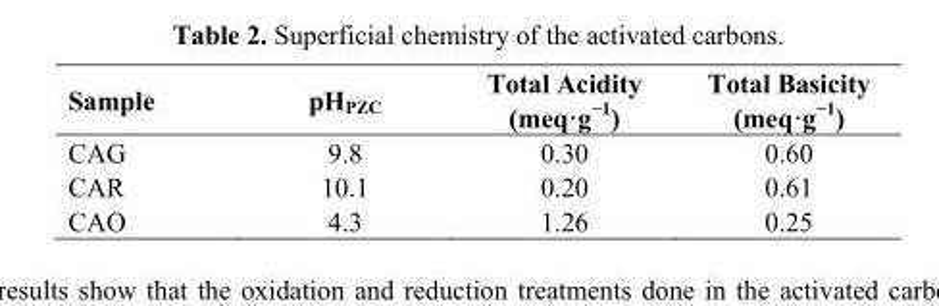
<table><thead><tr><td>Sample</td><td>pH<sub>PZC</sub></td><td>Total Acidity (meq·g<sup>−1</sup>)</td><td>Total Basicity (meq·g<sup>−1</sup>)</td></tr></thead><tbody><tr><td>CAG</td><td>9.8</td><td>0.30</td><td>0.60</td></tr><tr><td>CAR</td><td>10.1</td><td>0.20</td><td>0.61</td></tr><tr><td>CAO</td><td>4.3</td><td>1.26</td><td>0.25</td></tr></tbody></table>